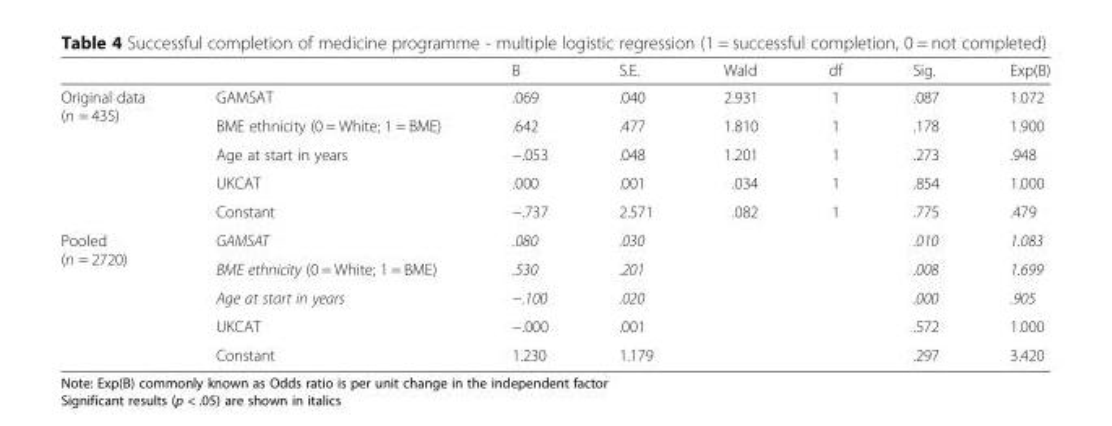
<table><thead><tr><td></td><td></td><td>B</td><td>S.E.</td><td>Wald</td><td>df</td><td>Sig.</td><td>Exp(B)</td></tr></thead><tbody><tr><td rowspan="5">Original data (n = 435)</td><td>GAMSAT</td><td>.069</td><td>.040</td><td>2.931</td><td>1</td><td>.087</td><td>1.072</td></tr><tr><td>BME ethnicity (0 = White; 1 = BME)</td><td>.642</td><td>.477</td><td>1.810</td><td>1</td><td>.178</td><td>1.900</td></tr><tr><td>Age at start in years</td><td>−.053</td><td>.048</td><td>1.201</td><td>1</td><td>.273</td><td>.948</td></tr><tr><td>UKCAT</td><td>.000</td><td>.001</td><td>.034</td><td>1</td><td>.854</td><td>1.000</td></tr><tr><td>Constant</td><td>−.737</td><td>2.571</td><td>.082</td><td>1</td><td>.775</td><td>.479</td></tr><tr><td rowspan="5">Pooled (n = 2720)</td><td>GAMSAT</td><td>.080</td><td>.030</td><td></td><td></td><td>.010</td><td>1.083</td></tr><tr><td>BME ethnicity (0 = White; 1 = BME)</td><td>.530</td><td>.201</td><td></td><td></td><td>.008</td><td>1.699</td></tr><tr><td>Age at start in years</td><td>−.100</td><td>.020</td><td></td><td></td><td>.000</td><td>.905</td></tr><tr><td>UKCAT</td><td>−.000</td><td>.001</td><td></td><td></td><td>.572</td><td>1.000</td></tr><tr><td>Constant</td><td>1.230</td><td>1.179</td><td></td><td></td><td>.297</td><td>3.420</td></tr></tbody></table>